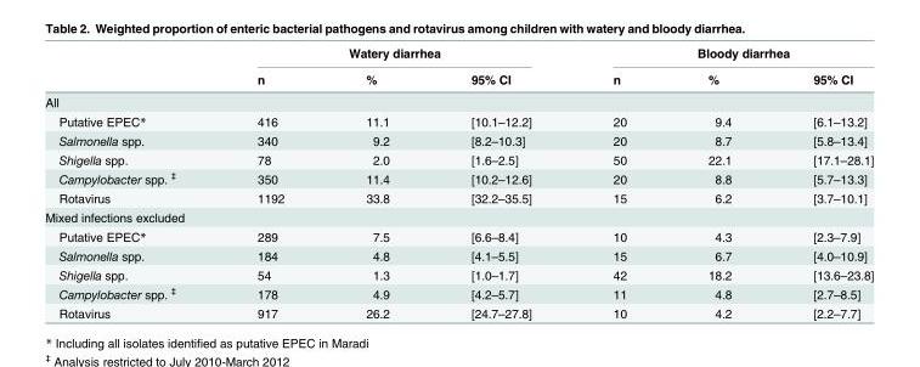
<table><thead><tr><td rowspan="2"></td><td colspan="3">Watery diarrhea</td><td colspan="3">Bloody diarrhea</td></tr><tr><td>n</td><td>%</td><td>95% CI</td><td>n</td><td>%</td><td>95% CI</td></tr></thead><tbody><tr><td colspan="7">All</td></tr><tr><td>Putative EPEC*</td><td>416</td><td>11.1</td><td>[10.1–12.2]</td><td>20</td><td>9.4</td><td>[6.1–13.2]</td></tr><tr><td>Salmonella spp.</td><td>340</td><td>9.2</td><td>[8.2–10.3]</td><td>20</td><td>8.7</td><td>[5.8–13.4]</td></tr><tr><td>Shigella spp.</td><td>78</td><td>2.0</td><td>[1.6–2.5]</td><td>50</td><td>22.1</td><td>[17.1–28.1]</td></tr><tr><td>Campylobacter spp. <sup>‡</sup></td><td>350</td><td>11.4</td><td>[10.2–12.6]</td><td>20</td><td>8.8</td><td>[5.7–13.3]</td></tr><tr><td>Rotavirus</td><td>1192</td><td>33.8</td><td>[32.2–35.5]</td><td>15</td><td>6.2</td><td>[3.7–10.1]</td></tr><tr><td colspan="7">Mixed infections excluded</td></tr><tr><td>Putative EPEC*</td><td>289</td><td>7.5</td><td>[6.6–8.4]</td><td>10</td><td>4.3</td><td>[2.3–7.9]</td></tr><tr><td>Salmonella spp.</td><td>184</td><td>4.8</td><td>[4.1–5.5]</td><td>15</td><td>6.7</td><td>[4.0–10.9]</td></tr><tr><td>Shigella spp.</td><td>54</td><td>1.3</td><td>[1.0–1.7]</td><td>42</td><td>18.2</td><td>[13.6–23.8]</td></tr><tr><td>Campylobacter spp. <sup>‡</sup></td><td>178</td><td>4.9</td><td>[4.2–5.7]</td><td>11</td><td>4.8</td><td>[2.7–8.5]</td></tr><tr><td>Rotavirus</td><td>917</td><td>26.2</td><td>[24.7–27.8]</td><td>10</td><td>4.2</td><td>[2.2–7.7]</td></tr></tbody></table>